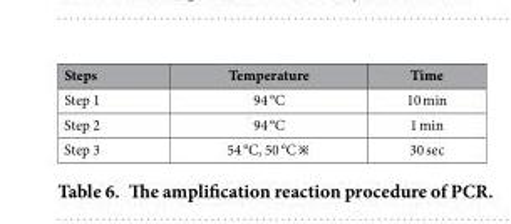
<table><thead><tr><td>Steps</td><td>Temperature</td><td>Time</td></tr></thead><tbody><tr><td>Step 1</td><td>94 °C</td><td>10 min</td></tr><tr><td>Step 2</td><td>94 °C</td><td>1 min</td></tr><tr><td>Step 3</td><td>54 °C, 50 °C※</td><td>30 sec</td></tr></tbody></table>